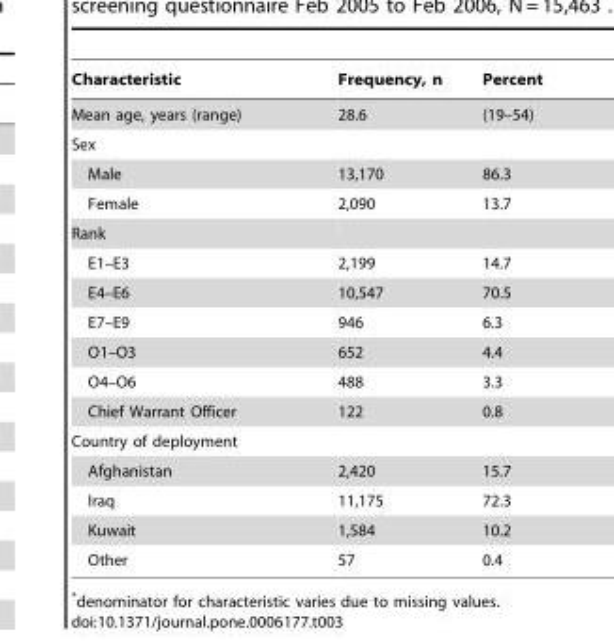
<table><thead><tr><td>Characteristic</td><td>Frequency, n</td><td>Percent</td></tr></thead><tbody><tr><td>Mean age, years (range)</td><td>28.6</td><td>(19–54)</td></tr><tr><td colspan="3">Sex</td></tr><tr><td>Male</td><td>13,170</td><td>86.3</td></tr><tr><td>Female</td><td>2,090</td><td>13.7</td></tr><tr><td colspan="3">Rank</td></tr><tr><td>E1–E3</td><td>2,199</td><td>14.7</td></tr><tr><td>E4–E6</td><td>10,547</td><td>70.5</td></tr><tr><td>E7–E9</td><td>946</td><td>6.3</td></tr><tr><td>O1–O3</td><td>652</td><td>4.4</td></tr><tr><td>O4–O6</td><td>488</td><td>3.3</td></tr><tr><td>Chief Warrant Officer</td><td>122</td><td>0.8</td></tr><tr><td colspan="3">Country of deployment</td></tr><tr><td>Afghanistan</td><td>2,420</td><td>15.7</td></tr><tr><td>Iraq</td><td>11,175</td><td>72.3</td></tr><tr><td>Kuwait</td><td>1,584</td><td>10.2</td></tr><tr><td>Other</td><td>57</td><td>0.4</td></tr></tbody></table>